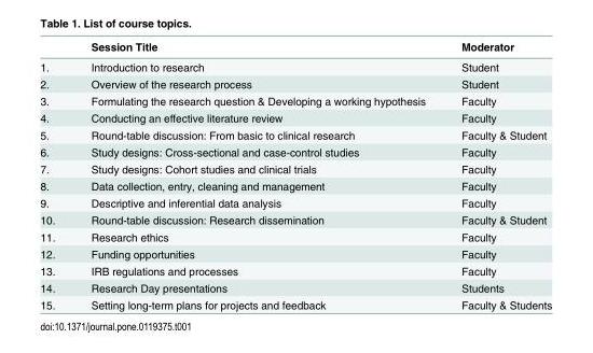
<table><thead><tr><td></td><td>Session Title</td><td>Moderator</td></tr></thead><tbody><tr><td>1.</td><td>Introduction to research</td><td>Student</td></tr><tr><td>2.</td><td>Overview of the research process</td><td>Student</td></tr><tr><td>3.</td><td>Formulating the research question &amp; Developing a working hypothesis</td><td>Faculty</td></tr><tr><td>4.</td><td>Conducting an effective literature review</td><td>Faculty</td></tr><tr><td>5.</td><td>Round-table discussion: From basic to clinical research</td><td>Faculty &amp; Student</td></tr><tr><td>6.</td><td>Study designs: Cross-sectional and case-control studies</td><td>Faculty</td></tr><tr><td>7.</td><td>Study designs: Cohort studies and clinical trials</td><td>Faculty</td></tr><tr><td>8.</td><td>Data collection, entry, cleaning and management</td><td>Faculty</td></tr><tr><td>9.</td><td>Descriptive and inferential data analysis</td><td>Faculty</td></tr><tr><td>10.</td><td>Round-table discussion: Research dissemination</td><td>Faculty &amp; Student</td></tr><tr><td>11.</td><td>Research ethics</td><td>Faculty</td></tr><tr><td>12.</td><td>Funding opportunities</td><td>Faculty</td></tr><tr><td>13.</td><td>IRB regulations and processes</td><td>Faculty</td></tr><tr><td>14.</td><td>Research Day presentations</td><td>Students</td></tr><tr><td>15.</td><td>Setting long-term plans for projects and feedback</td><td>Faculty &amp; Students</td></tr></tbody></table>